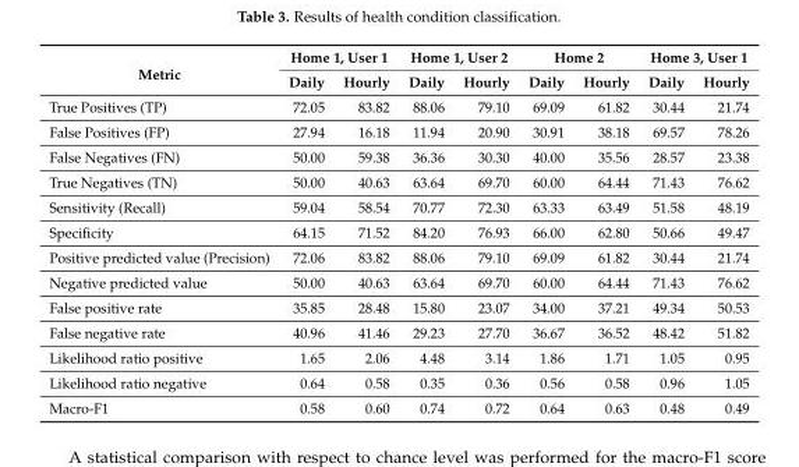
<table><thead><tr><td rowspan="2">Metric</td><td colspan="2">Home 1, User 1</td><td colspan="2">Home 1, User 2</td><td colspan="2">Home 2</td><td colspan="2">Home 3, User 1</td></tr><tr><td>Daily</td><td>Hourly</td><td>Daily</td><td>Hourly</td><td>Daily</td><td>Hourly</td><td>Daily</td><td>Hourly</td></tr></thead><tbody><tr><td>True Positives (TP)</td><td>72.05</td><td>83.82</td><td>88.06</td><td>79.10</td><td>69.09</td><td>61.82</td><td>30.44</td><td>21.74</td></tr><tr><td>False Positives (FP)</td><td>27.94</td><td>16.18</td><td>11.94</td><td>20.90</td><td>30.91</td><td>38.18</td><td>69.57</td><td>78.26</td></tr><tr><td>False Negatives (FN)</td><td>50.00</td><td>59.38</td><td>36.36</td><td>30.30</td><td>40.00</td><td>35.56</td><td>28.57</td><td>23.38</td></tr><tr><td>True Negatives (TN)</td><td>50.00</td><td>40.63</td><td>63.64</td><td>69.70</td><td>60.00</td><td>64.44</td><td>71.43</td><td>76.62</td></tr><tr><td>Sensitivity (Recall)</td><td>59.04</td><td>58.54</td><td>70.77</td><td>72.30</td><td>63.33</td><td>63.49</td><td>51.58</td><td>48.19</td></tr><tr><td>Specificity</td><td>64.15</td><td>71.52</td><td>84.20</td><td>76.93</td><td>66.00</td><td>62.80</td><td>50.66</td><td>49.47</td></tr><tr><td>Positive predicted value (Precision)</td><td>72.06</td><td>83.82</td><td>88.06</td><td>79.10</td><td>69.09</td><td>61.82</td><td>30.44</td><td>21.74</td></tr><tr><td>Negative predicted value</td><td>50.00</td><td>40.63</td><td>63.64</td><td>69.70</td><td>60.00</td><td>64.44</td><td>71.43</td><td>76.62</td></tr><tr><td>False positive rate</td><td>35.85</td><td>28.48</td><td>15.80</td><td>23.07</td><td>34.00</td><td>37.21</td><td>49.34</td><td>50.53</td></tr><tr><td>False negative rate</td><td>40.96</td><td>41.46</td><td>29.23</td><td>27.70</td><td>36.67</td><td>36.52</td><td>48.42</td><td>51.82</td></tr><tr><td>Likelihood ratio positive</td><td>1.65</td><td>2.06</td><td>4.48</td><td>3.14</td><td>1.86</td><td>1.71</td><td>1.05</td><td>0.95</td></tr><tr><td>Likelihood ratio negative</td><td>0.64</td><td>0.58</td><td>0.35</td><td>0.36</td><td>0.56</td><td>0.58</td><td>0.96</td><td>1.05</td></tr><tr><td>Macro-F1</td><td>0.58</td><td>0.60</td><td>0.74</td><td>0.72</td><td>0.64</td><td>0.63</td><td>0.48</td><td>0.49</td></tr></tbody></table>